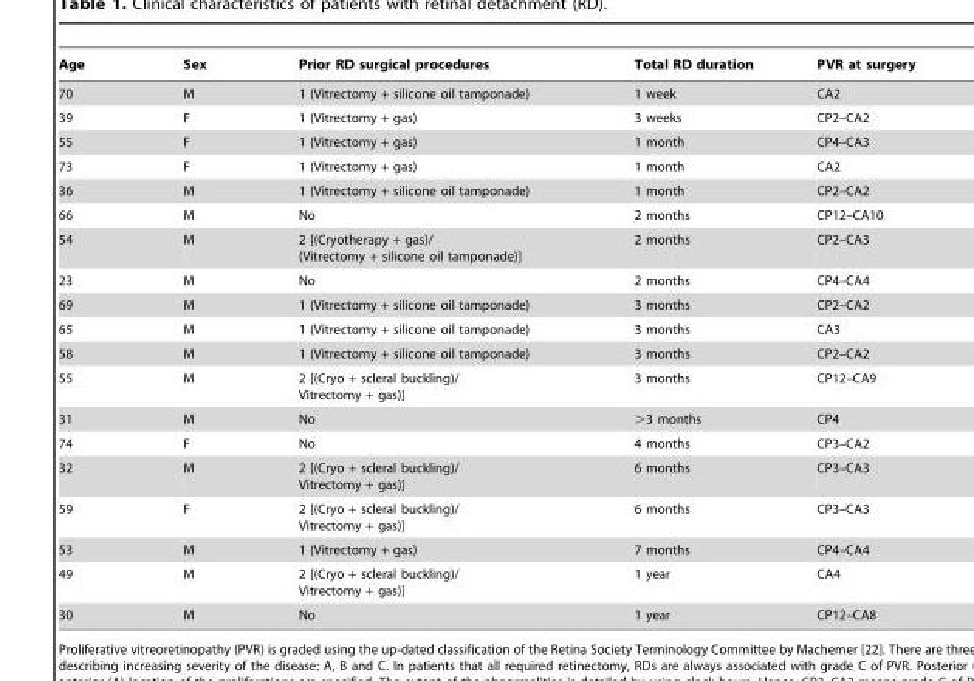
<table><thead><tr><td>Age</td><td>Sex</td><td>Prior RD surgical procedures</td><td>Total RD duration</td><td>PVR at surgery</td></tr></thead><tbody><tr><td>70</td><td>M</td><td>1 (Vitrectomy + silicone oil tamponade)</td><td>1 week</td><td>CA2</td></tr><tr><td>39</td><td>F</td><td>1 (Vitrectomy + gas)</td><td>3 weeks</td><td>CP2–CA2</td></tr><tr><td>55</td><td>F</td><td>1 (Vitrectomy + gas)</td><td>1 month</td><td>CP4–CA3</td></tr><tr><td>73</td><td>F</td><td>1 (Vitrectomy + gas)</td><td>1 month</td><td>CA2</td></tr><tr><td>36</td><td>M</td><td>1 (Vitrectomy + silicone oil tamponade)</td><td>1 month</td><td>CP2–CA2</td></tr><tr><td>66</td><td>M</td><td>No</td><td>2 months</td><td>CP12–CA10</td></tr><tr><td>54</td><td>M</td><td>2 [(Cryotherapy + gas)/ (Vitrectomy + silicone oil tamponade)]</td><td>2 months</td><td>CP2–CA3</td></tr><tr><td>23</td><td>M</td><td>No</td><td>2 months</td><td>CP4–CA4</td></tr><tr><td>69</td><td>M</td><td>1 (Vitrectomy + silicone oil tamponade)</td><td>3 months</td><td>CP2–CA2</td></tr><tr><td>65</td><td>M</td><td>1 (Vitrectomy + silicone oil tamponade)</td><td>3 months</td><td>CA3</td></tr><tr><td>58</td><td>M</td><td>1 (Vitrectomy + silicone oil tamponade)</td><td>3 months</td><td>CP2–CA2</td></tr><tr><td>55</td><td>M</td><td>2 [(Cryo + scleral buckling)/ Vitrectomy + gas)]</td><td>3 months</td><td>CP12–CA9</td></tr><tr><td>31</td><td>M</td><td>No</td><td>&gt;3 months</td><td>CP4</td></tr><tr><td>74</td><td>F</td><td>No</td><td>4 months</td><td>CP3–CA2</td></tr><tr><td>32</td><td>M</td><td>2 [(Cryo + scleral buckling)/ Vitrectomy + gas)]</td><td>6 months</td><td>CP3–CA3</td></tr><tr><td>59</td><td>F</td><td>2 [(Cryo + scleral buckling)/ Vitrectomy + gas)]</td><td>6 months</td><td>CP3–CA3</td></tr><tr><td>53</td><td>M</td><td>1 (Vitrectomy + gas)</td><td>7 months</td><td>CP4–CA4</td></tr><tr><td>49</td><td>M</td><td>2 [(Cryo + scleral buckling)/ Vitrectomy + gas)]</td><td>1 year</td><td>CA4</td></tr><tr><td>30</td><td>M</td><td>No</td><td>1 year</td><td>CP12–CA8</td></tr></tbody></table>